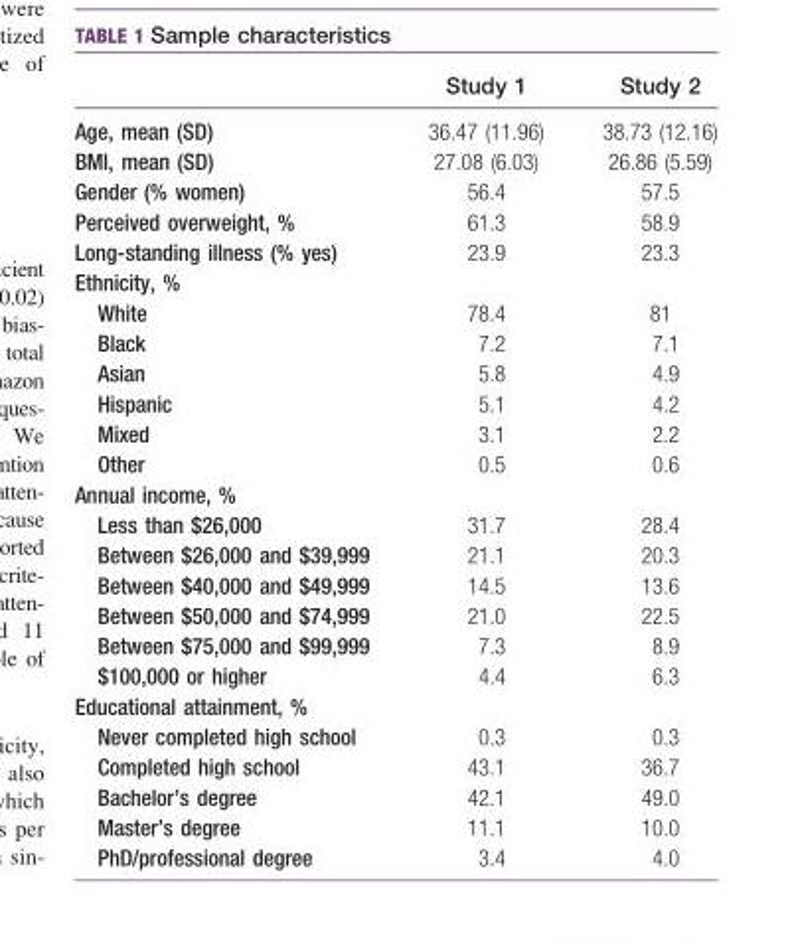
<table><thead><tr><td></td><td>Study 1</td><td>Study 2</td></tr></thead><tbody><tr><td>Age, mean (SD)</td><td>36.47 (11.96)</td><td>38.73 (12.16)</td></tr><tr><td>BMI, mean (SD)</td><td>27.08 (6.03)</td><td>26.86 (5.59)</td></tr><tr><td>Gender (% women)</td><td>56.4</td><td>57.5</td></tr><tr><td>Perceived overweight, %</td><td>61.3</td><td>58.9</td></tr><tr><td>Long-standing illness (% yes)</td><td>23.9</td><td>23.3</td></tr><tr><td colspan="3">Ethnicity, %</td></tr><tr><td>White</td><td>78.4</td><td>81</td></tr><tr><td>Black</td><td>7.2</td><td>7.1</td></tr><tr><td>Asian</td><td>5.8</td><td>4.9</td></tr><tr><td>Hispanic</td><td>5.1</td><td>4.2</td></tr><tr><td>Mixed</td><td>3.1</td><td>2.2</td></tr><tr><td>Other</td><td>0.5</td><td>0.6</td></tr><tr><td colspan="3">Annual income, %</td></tr><tr><td>Less than $26,000</td><td>31.7</td><td>28.4</td></tr><tr><td>Between $26,000 and $39,999</td><td>21.1</td><td>20.3</td></tr><tr><td>Between $40,000 and $49,999</td><td>14.5</td><td>13.6</td></tr><tr><td>Between $50,000 and $74,999</td><td>21.0</td><td>22.5</td></tr><tr><td>Between $75,000 and $99,999</td><td>7.3</td><td>8.9</td></tr><tr><td>$100,000 or higher</td><td>4.4</td><td>6.3</td></tr><tr><td colspan="3">Educational attainment, %</td></tr><tr><td>Never completed high school</td><td>0.3</td><td>0.3</td></tr><tr><td>Completed high school</td><td>43.1</td><td>36.7</td></tr><tr><td>Bachelor’s degree</td><td>42.1</td><td>49.0</td></tr><tr><td>Master’s degree</td><td>11.1</td><td>10.0</td></tr><tr><td>PhD/professional degree</td><td>3.4</td><td>4.0</td></tr></tbody></table>